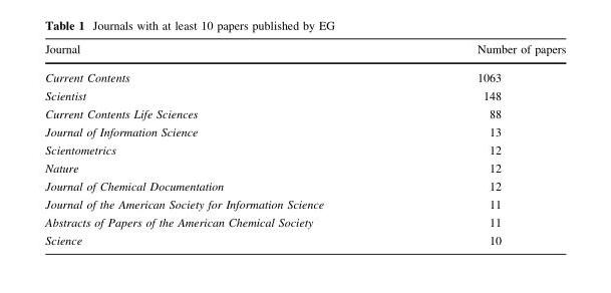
<table><thead><tr><td>Journal</td><td>Number of papers</td></tr></thead><tbody><tr><td>Current Contents</td><td>1063</td></tr><tr><td>Scientist</td><td>148</td></tr><tr><td>Current Contents Life Sciences</td><td>88</td></tr><tr><td>Journal of Information Science</td><td>13</td></tr><tr><td>Scientometrics</td><td>12</td></tr><tr><td>Nature</td><td>12</td></tr><tr><td>Journal of Chemical Documentation</td><td>12</td></tr><tr><td>Journal of the American Society for Information Science</td><td>11</td></tr><tr><td>Abstracts of Papers of the American Chemical Society</td><td>11</td></tr><tr><td>Science</td><td>10</td></tr></tbody></table>